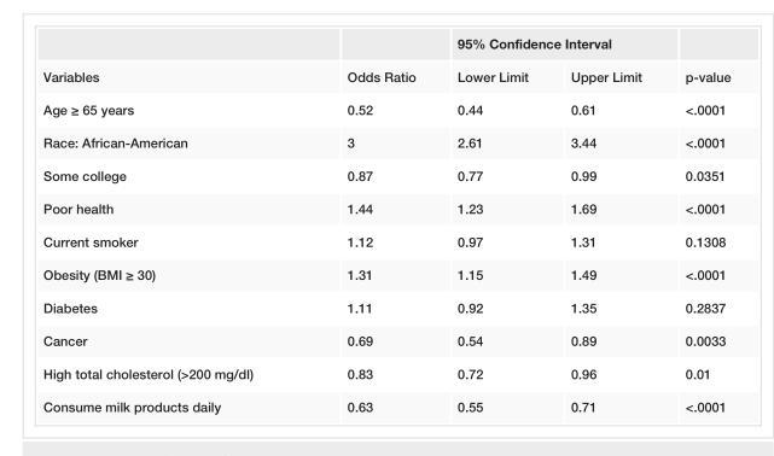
<table><thead><tr><td rowspan="2">Variables</td><td rowspan="2">Odds Ratio</td><td colspan="2">95% Confidence Interval</td><td rowspan="2">p-value</td></tr><tr><td>Lower Limit</td><td>Upper Limit</td></tr></thead><tbody><tr><td>Age ≥ 65 years</td><td>0.52</td><td>0.44</td><td>0.61</td><td>&lt;.0001</td></tr><tr><td>Race: African-American</td><td>3</td><td>2.61</td><td>3.44</td><td>&lt;.0001</td></tr><tr><td>Some college</td><td>0.87</td><td>0.77</td><td>0.99</td><td>0.0351</td></tr><tr><td>Poor health</td><td>1.44</td><td>1.23</td><td>1.69</td><td>&lt;.0001</td></tr><tr><td>Current smoker</td><td>1.12</td><td>0.97</td><td>1.31</td><td>0.1308</td></tr><tr><td>Obesity (BMI ≥ 30)</td><td>1.31</td><td>1.15</td><td>1.49</td><td>&lt;.0001</td></tr><tr><td>Diabetes</td><td>1.11</td><td>0.92</td><td>1.35</td><td>0.2837</td></tr><tr><td>Cancer</td><td>0.69</td><td>0.54</td><td>0.89</td><td>0.0033</td></tr><tr><td>High total cholesterol (&gt;200 mg/dl)</td><td>0.83</td><td>0.72</td><td>0.96</td><td>0.01</td></tr><tr><td>Consume milk products daily</td><td>0.63</td><td>0.55</td><td>0.71</td><td>&lt;.0001</td></tr></tbody></table>